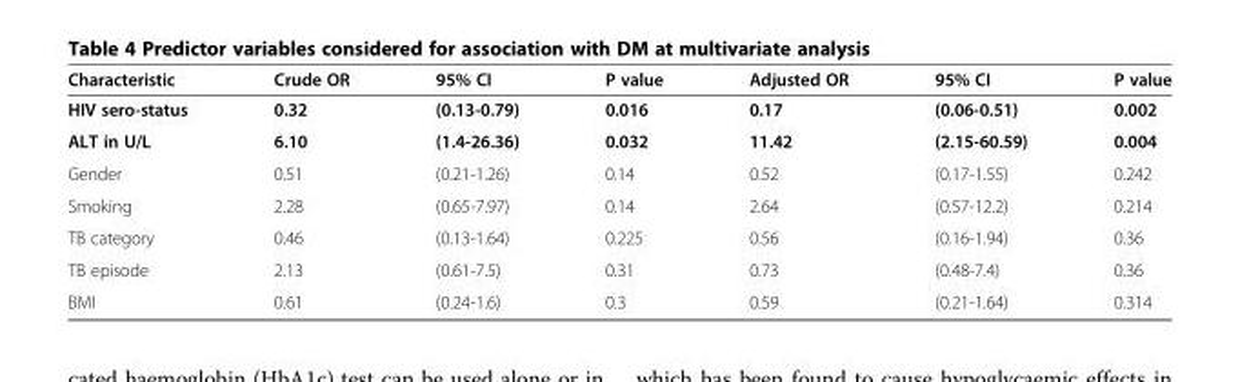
<table><thead><tr><td>Characteristic</td><td>Crude OR</td><td>95% CI</td><td>P value</td><td>Adjusted OR</td><td>95% CI</td><td>P value</td></tr></thead><tbody><tr><td>HIV sero-status</td><td>0.32</td><td>(0.13-0.79)</td><td>0.016</td><td>0.17</td><td>(0.06-0.51)</td><td>0.002</td></tr><tr><td>ALT in U/L</td><td>6.10</td><td>(1.4-26.36)</td><td>0.032</td><td>11.42</td><td>(2.15-60.59)</td><td>0.004</td></tr><tr><td>Gender</td><td>0.51</td><td>(0.21-1.26)</td><td>0.14</td><td>0.52</td><td>(0.17-1.55)</td><td>0.242</td></tr><tr><td>Smoking</td><td>2.28</td><td>(0.65-7.97)</td><td>0.14</td><td>2.64</td><td>(0.57-12.2)</td><td>0.214</td></tr><tr><td>TB category</td><td>0.46</td><td>(0.13-1.64)</td><td>0.225</td><td>0.56</td><td>(0.16-1.94)</td><td>0.36</td></tr><tr><td>TB episode</td><td>2.13</td><td>(0.61-7.5)</td><td>0.31</td><td>0.73</td><td>(0.48-7.4)</td><td>0.36</td></tr><tr><td>BMI</td><td>0.61</td><td>(0.24-1.6)</td><td>0.3</td><td>0.59</td><td>(0.21-1.64)</td><td>0.314</td></tr></tbody></table>